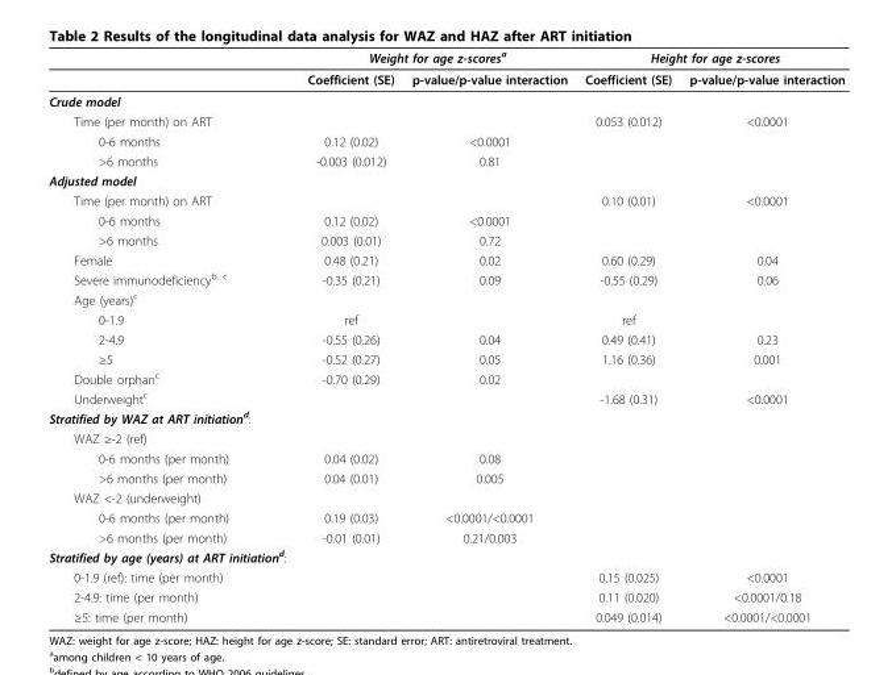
<table><thead><tr><td rowspan="2"></td><td colspan="2">Weight for age z-scores<sup>a</sup></td><td colspan="2">Height for age z-scores</td></tr><tr><td>Coefficient (SE)</td><td>p-value/p-value interaction</td><td>Coefficient (SE)</td><td>p-value/p-value interaction</td></tr></thead><tbody><tr><td colspan="5">Crude model</td></tr><tr><td>Time (per month) on ART</td><td></td><td></td><td>0.053 (0.012)</td><td>&lt;0.0001</td></tr><tr><td>0-6 months</td><td>0.12 (0.02)</td><td>&lt;0.0001</td><td></td><td></td></tr><tr><td>&gt;6 months</td><td>-0.003 (0.012)</td><td>0.81</td><td></td><td></td></tr><tr><td colspan="5">Adjusted model</td></tr><tr><td>Time (per month) on ART</td><td></td><td></td><td>0.10 (0.01)</td><td>&lt;0.0001</td></tr><tr><td>0-6 months</td><td>0.12 (0.02)</td><td>&lt;0.0001</td><td></td><td></td></tr><tr><td>&gt;6 months</td><td>0.003 (0.01)</td><td>0.72</td><td></td><td></td></tr><tr><td>Female</td><td>0.48 (0.21)</td><td>0.02</td><td>0.60 (0.29)</td><td>0.04</td></tr><tr><td>Severe immunodeficiency<sup>b, c</sup></td><td>-0.35 (0.21)</td><td>0.09</td><td>-0.55 (0.29)</td><td>0.06</td></tr><tr><td colspan="5">Age (years)<sup>c</sup></td></tr><tr><td>0-1.9</td><td>ref</td><td></td><td>ref</td><td></td></tr><tr><td>2-4.9</td><td>-0.55 (0.26)</td><td>0.04</td><td>0.49 (0.41)</td><td>0.23</td></tr><tr><td>≥5</td><td>-0.52 (0.27)</td><td>0.05</td><td>1.16 (0.36)</td><td>0.001</td></tr><tr><td>Double orphan<sup>c</sup></td><td>-0.70 (0.29)</td><td>0.02</td><td></td><td></td></tr><tr><td>Underweight<sup>c</sup></td><td></td><td></td><td>-1.68 (0.31)</td><td>&lt;0.0001</td></tr><tr><td colspan="5">Stratified by WAZ at ART initiation<sup>d</sup>:</td></tr><tr><td colspan="5">WAZ ≥-2 (ref)</td></tr><tr><td>0-6 months (per month)</td><td>0.04 (0.02)</td><td>0.08</td><td></td><td></td></tr><tr><td>&gt;6 months (per month)</td><td>0.04 (0.01)</td><td>0.005</td><td></td><td></td></tr><tr><td colspan="5">WAZ &lt;-2 (underweight)</td></tr><tr><td>0-6 months (per month)</td><td>0.19 (0.03)</td><td>&lt;0.0001/&lt;0.0001</td><td></td><td></td></tr><tr><td>&gt;6 months (per month)</td><td>-0.01 (0.01)</td><td>0.21/0.003</td><td></td><td></td></tr><tr><td colspan="5">Stratified by age (years) at ART initiation<sup>d</sup>:</td></tr><tr><td>0-1.9 (ref): time (per month)</td><td></td><td></td><td>0.15 (0.025)</td><td>&lt;0.0001</td></tr><tr><td>2-4.9: time (per month)</td><td></td><td></td><td>0.11 (0.020)</td><td>&lt;0.0001/0.18</td></tr><tr><td>≥5: time (per month)</td><td></td><td></td><td>0.049 (0.014)</td><td>&lt;0.0001/&lt;0.0001</td></tr></tbody></table>